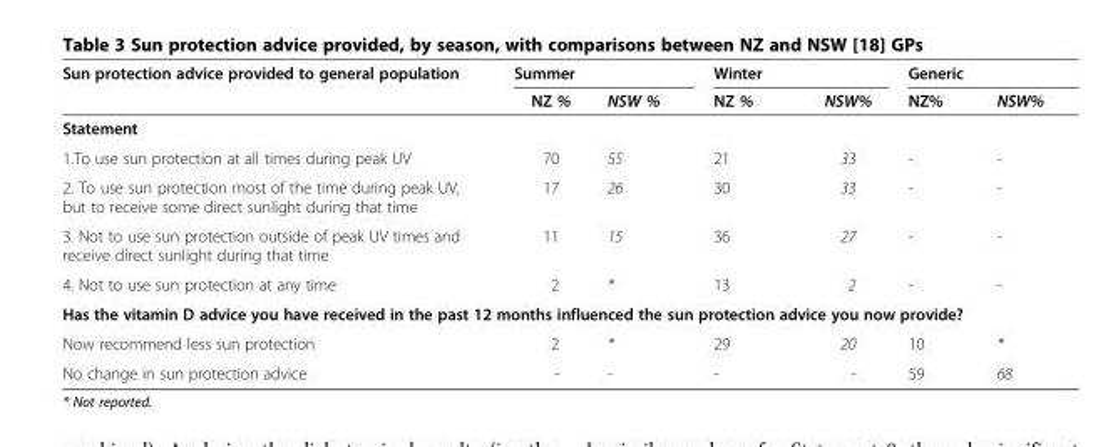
<table><thead><tr><td rowspan="2">Sun protection advice provided to general population</td><td colspan="2">Summer</td><td colspan="2">Winter</td><td colspan="2">Generic</td></tr><tr><td>NZ %</td><td>NSW %</td><td>NZ %</td><td>NSW%</td><td>NZ%</td><td>NSW%</td></tr></thead><tbody><tr><td colspan="7">Statement</td></tr><tr><td>1.To use sun protection at all times during peak UV</td><td>70</td><td>55</td><td>21</td><td>33</td><td>-</td><td>-</td></tr><tr><td>2. To use sun protection most of the time during peak UV, but to receive some direct sunlight during that time</td><td>17</td><td>26</td><td>30</td><td>33</td><td>-</td><td>-</td></tr><tr><td>3. Not to use sun protection outside of peak UV times and receive direct sunlight during that time</td><td>11</td><td>15</td><td>36</td><td>27</td><td>-</td><td>-</td></tr><tr><td>4. Not to use sun protection at any time</td><td>2</td><td>*</td><td>13</td><td>2</td><td>-</td><td>-</td></tr><tr><td colspan="7">Has the vitamin D advice you have received in the past 12 months influenced the sun protection advice you now provide?</td></tr><tr><td>Now recommend less sun protection</td><td>2</td><td>*</td><td>29</td><td>20</td><td>10</td><td>*</td></tr><tr><td>No change in sun protection advice</td><td>-</td><td>-</td><td>-</td><td>-</td><td>59</td><td>68</td></tr></tbody></table>